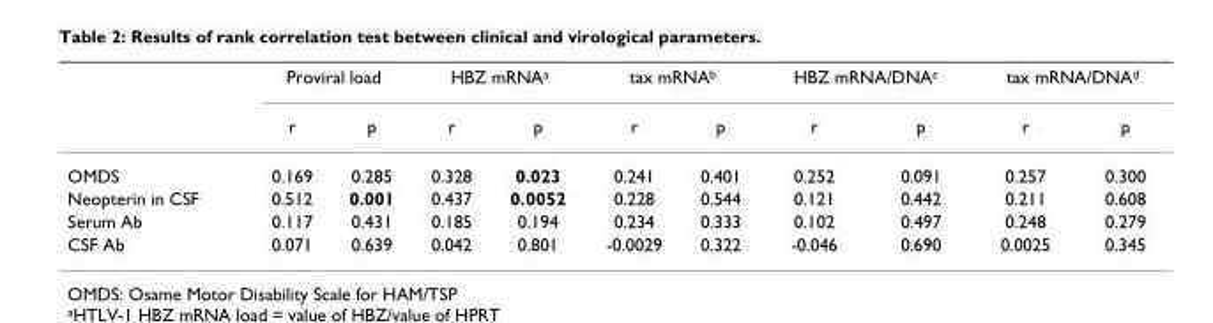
<table><thead><tr><td rowspan="2"></td><td colspan="2">Proviral load</td><td colspan="2">HBZ mRNA<sup>a</sup></td><td colspan="2">tax mRNA<sup>b</sup></td><td colspan="2">HBZ mRNA/DNA<sup>c</sup></td><td colspan="2">tax mRNA/DNA<sup>d</sup></td></tr><tr><td>r</td><td>p</td><td>r</td><td>p</td><td>r</td><td>p</td><td>r</td><td>p</td><td>r</td><td>p</td></tr></thead><tbody><tr><td>OMDS</td><td>0.169</td><td>0.285</td><td>0.328</td><td>0.023</td><td>0.241</td><td>0.401</td><td>0.252</td><td>0.091</td><td>0.257</td><td>0.300</td></tr><tr><td>Neopterin in CSF</td><td>0.512</td><td>0.001</td><td>0.437</td><td>0.0052</td><td>0.228</td><td>0.544</td><td>0.121</td><td>0.442</td><td>0.211</td><td>0.608</td></tr><tr><td>Serum Ab</td><td>0.117</td><td>0.431</td><td>0.185</td><td>0.194</td><td>0.234</td><td>0.333</td><td>0.102</td><td>0.497</td><td>0.248</td><td>0.279</td></tr><tr><td>CSF Ab</td><td>0.071</td><td>0.639</td><td>0.042</td><td>0.801</td><td>-0.0029</td><td>0.322</td><td>-0.046</td><td>0.690</td><td>0.0025</td><td>0.345</td></tr></tbody></table>